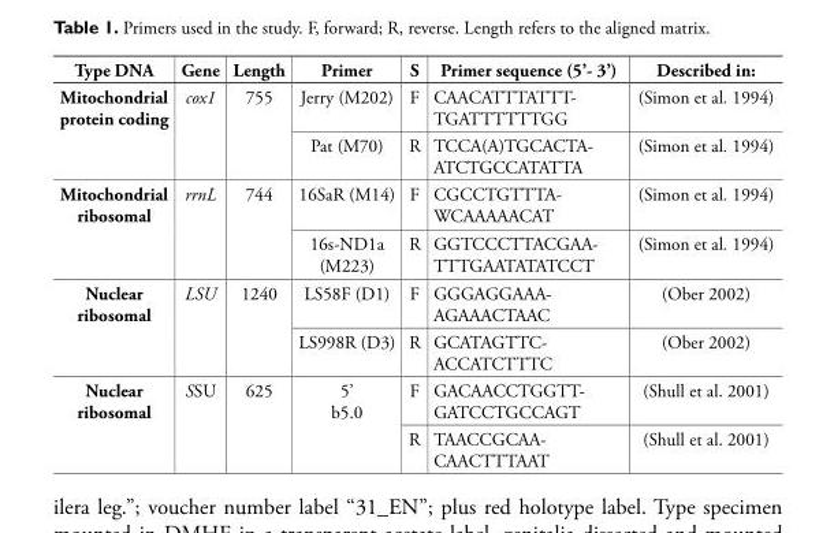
<table><thead><tr><td>Type DNA</td><td>Gene</td><td>Length</td><td>Primer</td><td>S</td><td>Primer sequence (5’- 3’)</td><td>Described in:</td></tr></thead><tbody><tr><td rowspan="2">Mitochondrial protein coding</td><td rowspan="2">cox1</td><td rowspan="2">755</td><td>Jerry (M202)</td><td>F</td><td>CAACATTTATTT- TGATTTTTTGG</td><td>(Simon et al. 1994)</td></tr><tr><td>Pat (M70)</td><td>R</td><td>TCCA(A)TGCACTA- ATCTGCCATATTA</td><td>(Simon et al. 1994)</td></tr><tr><td rowspan="2">Mitochondrial ribosomal</td><td rowspan="2">rrnL</td><td rowspan="2">744</td><td>16SaR (M14)</td><td>F</td><td>CGCCTGTTTA- WCAAAAACAT</td><td>(Simon et al. 1994)</td></tr><tr><td>16s-ND1a (M223)</td><td>R</td><td>GGTCCCTTACGAA- TTTGAATATATCCT</td><td>(Simon et al. 1994)</td></tr><tr><td rowspan="2">Nuclear ribosomal</td><td rowspan="2">LSU</td><td rowspan="2">1240</td><td>LS58F (D1)</td><td>F</td><td>GGGAGGAAA- AGAAACTAAC</td><td>(Ober 2002)</td></tr><tr><td>LS998R (D3)</td><td>R</td><td>GCATAGTTC- ACCATCTTTC</td><td>(Ober 2002)</td></tr><tr><td rowspan="2">Nuclear ribosomal</td><td rowspan="2">SSU</td><td rowspan="2">625</td><td rowspan="2">5’ b5.0</td><td>F</td><td>GACAACCTGGTT- GATCCTGCCAGT</td><td>(Shull et al. 2001)</td></tr><tr><td>R</td><td>TAACCGCAA- CAACTTTAAT</td><td>(Shull et al. 2001)</td></tr></tbody></table>